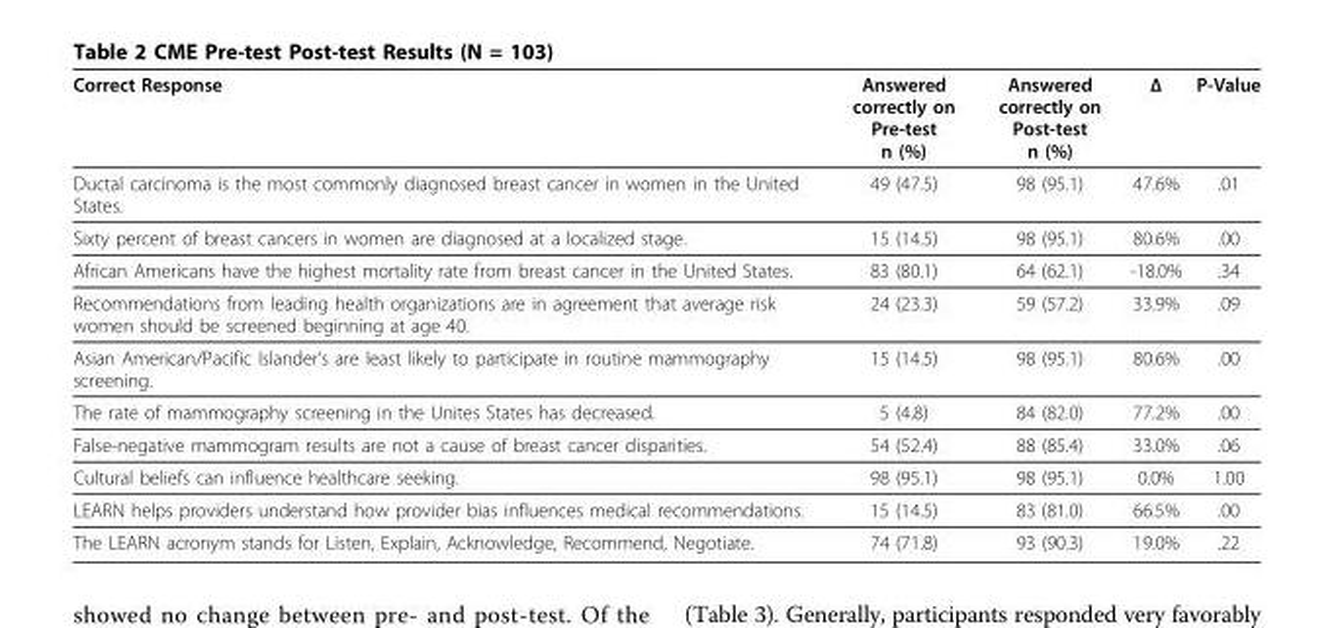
<table><thead><tr><td>Correct Response</td><td>Answered correctly on Pre-test n (%)</td><td>Answered correctly on Post-test n (%)</td><td>Δ</td><td>P-Value</td></tr></thead><tbody><tr><td>Ductal carcinoma is the most commonly diagnosed breast cancer in women in the United States.</td><td>49 (47.5)</td><td>98 (95.1)</td><td>47.6%</td><td>.01</td></tr><tr><td>Sixty percent of breast cancers in women are diagnosed at a localized stage.</td><td>15 (14.5)</td><td>98 (95.1)</td><td>80.6%</td><td>.00</td></tr><tr><td>African Americans have the highest mortality rate from breast cancer in the United States.</td><td>83 (80.1)</td><td>64 (62.1)</td><td>-18.0%</td><td>.34</td></tr><tr><td>Recommendations from leading health organizations are in agreement that average risk women should be screened beginning at age 40.</td><td>24 (23.3)</td><td>59 (57.2)</td><td>33.9%</td><td>.09</td></tr><tr><td>Asian American/Pacific Islander’s are least likely to participate in routine mammography screening.</td><td>15 (14.5)</td><td>98 (95.1)</td><td>80.6%</td><td>.00</td></tr><tr><td>The rate of mammography screening in the Unites States has decreased.</td><td>5 (4.8)</td><td>84 (82.0)</td><td>77.2%</td><td>.00</td></tr><tr><td>False-negative mammogram results are not a cause of breast cancer disparities.</td><td>54 (52.4)</td><td>88 (85.4)</td><td>33.0%</td><td>.06</td></tr><tr><td>Cultural beliefs can influence healthcare seeking.</td><td>98 (95.1)</td><td>98 (95.1)</td><td>0.0%</td><td>1.00</td></tr><tr><td>LEARN helps providers understand how provider bias influences medical recommendations.</td><td>15 (14.5)</td><td>83 (81.0)</td><td>66.5%</td><td>.00</td></tr><tr><td>The LEARN acronym stands for Listen, Explain, Acknowledge, Recommend, Negotiate.</td><td>74 (71.8)</td><td>93 (90.3)</td><td>19.0%</td><td>.22</td></tr></tbody></table>